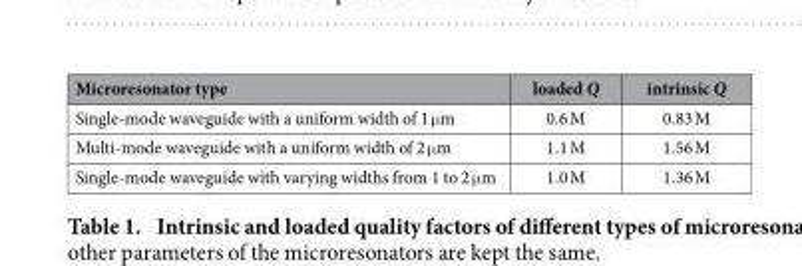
<table><thead><tr><td>Microresonator type</td><td>loaded Q</td><td>intrinsic Q</td></tr></thead><tbody><tr><td>Single-mode waveguide with a uniform width of 1 μ m</td><td>0.6 M</td><td>0.83 M</td></tr><tr><td>Multi-mode waveguide with a uniform width of 2 μ m</td><td>1.1 M</td><td>1.56 M</td></tr><tr><td>Single-mode waveguide with varying widths from 1 to 2 μ m</td><td>1.0 M</td><td>1.36 M</td></tr></tbody></table>